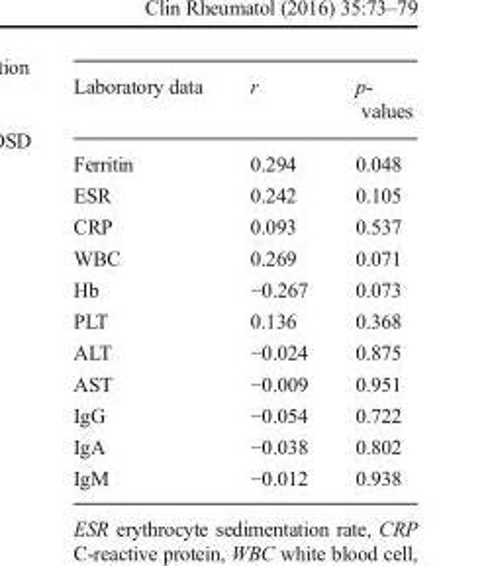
<table><thead><tr><td>Laboratory data</td><td>r</td><td>p- values</td></tr></thead><tbody><tr><td>Ferritin</td><td>0.294</td><td>0.048</td></tr><tr><td>ESR</td><td>0.242</td><td>0.105</td></tr><tr><td>CRP</td><td>0.093</td><td>0.537</td></tr><tr><td>WBC</td><td>0.269</td><td>0.071</td></tr><tr><td>Hb</td><td>−0.267</td><td>0.073</td></tr><tr><td>PLT</td><td>0.136</td><td>0.368</td></tr><tr><td>ALT</td><td>−0.024</td><td>0.875</td></tr><tr><td>AST</td><td>−0.009</td><td>0.951</td></tr><tr><td>IgG</td><td>−0.054</td><td>0.722</td></tr><tr><td>IgA</td><td>−0.038</td><td>0.802</td></tr><tr><td>IgM</td><td>−0.012</td><td>0.938</td></tr></tbody></table>